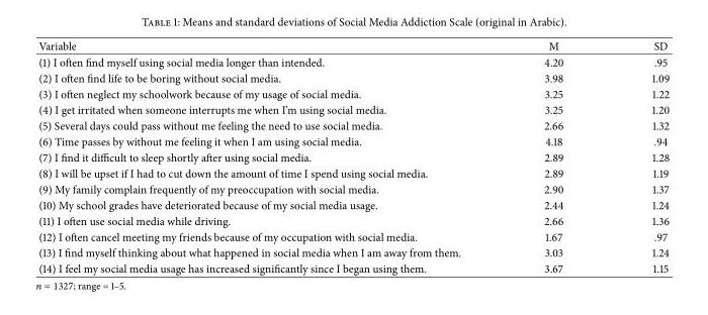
<table><thead><tr><td>Variable</td><td>M</td><td>SD</td></tr></thead><tbody><tr><td>(1) I often find myself using social media longer than intended.</td><td>4.20</td><td>.95</td></tr><tr><td>(2) I often find life to be boring without social media.</td><td>3.98</td><td>1.09</td></tr><tr><td>(3) I often neglect my schoolwork because of my usage of social media.</td><td>3.25</td><td>1.22</td></tr><tr><td>(4) I get irritated when someone interrupts me when I’m using social media.</td><td>3.25</td><td>1.20</td></tr><tr><td>(5) Several days could pass without me feeling the need to use social media.</td><td>2.66</td><td>1.32</td></tr><tr><td>(6) Time passes by without me feeling it when I am using social media.</td><td>4.18</td><td>.94</td></tr><tr><td>(7) I find it difficult to sleep shortly after using social media.</td><td>2.89</td><td>1.28</td></tr><tr><td>(8) I will be upset if I had to cut down the amount of time I spend using social media.</td><td>2.89</td><td>1.19</td></tr><tr><td>(9) My family complain frequently of my preoccupation with social media.</td><td>2.90</td><td>1.37</td></tr><tr><td>(10) My school grades have deteriorated because of my social media usage.</td><td>2.44</td><td>1.24</td></tr><tr><td>(11) I often use social media while driving.</td><td>2.66</td><td>1.36</td></tr><tr><td>(12) I often cancel meeting my friends because of my occupation with social media.</td><td>1.67</td><td>.97</td></tr><tr><td>(13) I find myself thinking about what happened in social media when I am away from them.</td><td>3.03</td><td>1.24</td></tr><tr><td>(14) I feel my social media usage has increased significantly since I began using them.</td><td>3.67</td><td>1.15</td></tr></tbody></table>